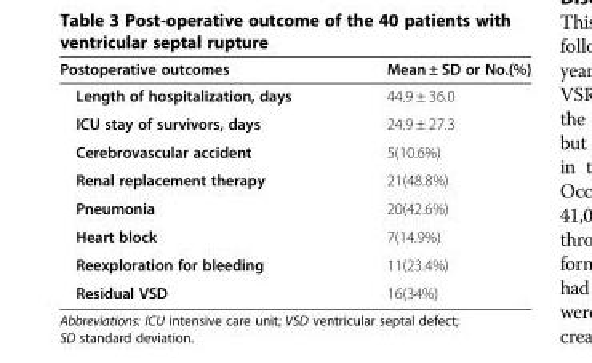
<table><thead><tr><td>Postoperative outcomes</td><td>Mean ± SD or No.(%)</td></tr></thead><tbody><tr><td>Length of hospitalization, days</td><td>44.9 ± 36.0</td></tr><tr><td>ICU stay of survivors, days</td><td>24.9 ± 27.3</td></tr><tr><td>Cerebrovascular accident</td><td>5(10.6%)</td></tr><tr><td>Renal replacement therapy</td><td>21(48.8%)</td></tr><tr><td>Pneumonia</td><td>20(42.6%)</td></tr><tr><td>Heart block</td><td>7(14.9%)</td></tr><tr><td>Reexploration for bleeding</td><td>11(23.4%)</td></tr><tr><td>Residual VSD</td><td>16(34%)</td></tr></tbody></table>